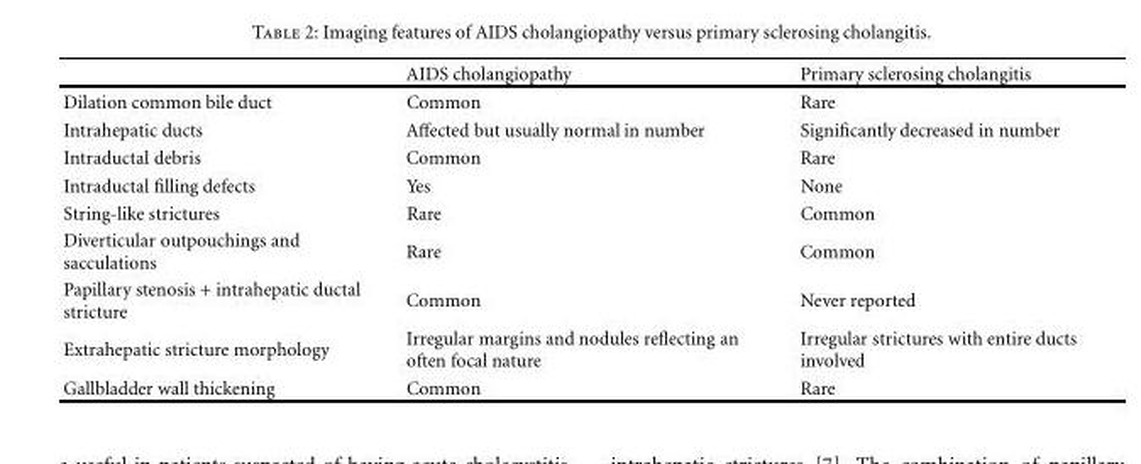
<table><thead><tr><td></td><td>AIDS cholangiopathy</td><td>Primary sclerosing cholangitis</td></tr></thead><tbody><tr><td>Dilation common bile duct</td><td>Common</td><td>Rare</td></tr><tr><td>Intrahepatic ducts</td><td>Affected but usually normal in number</td><td>Significantly decreased in number</td></tr><tr><td>Intraductal debris</td><td>Common</td><td>Rare</td></tr><tr><td>Intraductal filling defects</td><td>Yes</td><td>None</td></tr><tr><td>String-like strictures</td><td>Rare</td><td>Common</td></tr><tr><td>Diverticular outpouchings and sacculations</td><td>Rare</td><td>Common</td></tr><tr><td>Papillary stenosis + intrahepatic ductal stricture</td><td>Common</td><td>Never reported</td></tr><tr><td>Extrahepatic stricture morphology</td><td>Irregular margins and nodules reflecting an often focal nature</td><td>Irregular strictures with entire ducts involved</td></tr><tr><td>Gallbladder wall thickening</td><td>Common</td><td>Rare</td></tr></tbody></table>